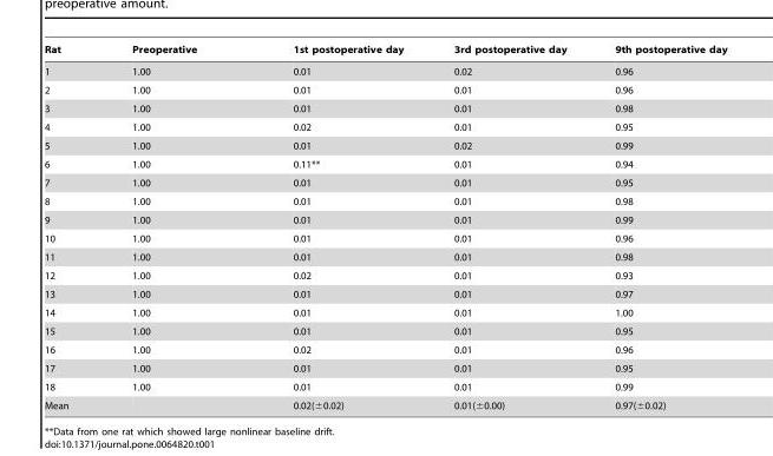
<table><thead><tr><td>Rat</td><td>Preoperative</td><td>1st postoperative day</td><td>3rd postoperative day</td><td>9th postoperative day</td></tr></thead><tbody><tr><td>1</td><td>1.00</td><td>0.01</td><td>0.02</td><td>0.96</td></tr><tr><td>2</td><td>1.00</td><td>0.01</td><td>0.01</td><td>0.96</td></tr><tr><td>3</td><td>1.00</td><td>0.01</td><td>0.01</td><td>0.98</td></tr><tr><td>4</td><td>1.00</td><td>0.02</td><td>0.01</td><td>0.95</td></tr><tr><td>5</td><td>1.00</td><td>0.01</td><td>0.02</td><td>0.99</td></tr><tr><td>6</td><td>1.00</td><td>0.11**</td><td>0.01</td><td>0.94</td></tr><tr><td>7</td><td>1.00</td><td>0.01</td><td>0.01</td><td>0.95</td></tr><tr><td>8</td><td>1.00</td><td>0.01</td><td>0.01</td><td>0.98</td></tr><tr><td>9</td><td>1.00</td><td>0.01</td><td>0.01</td><td>0.99</td></tr><tr><td>10</td><td>1.00</td><td>0.01</td><td>0.01</td><td>0.96</td></tr><tr><td>11</td><td>1.00</td><td>0.01</td><td>0.01</td><td>0.98</td></tr><tr><td>12</td><td>1.00</td><td>0.02</td><td>0.01</td><td>0.93</td></tr><tr><td>13</td><td>1.00</td><td>0.01</td><td>0.01</td><td>0.97</td></tr><tr><td>14</td><td>1.00</td><td>0.01</td><td>0.01</td><td>1.00</td></tr><tr><td>15</td><td>1.00</td><td>0.01</td><td>0.01</td><td>0.95</td></tr><tr><td>16</td><td>1.00</td><td>0.02</td><td>0.01</td><td>0.96</td></tr><tr><td>17</td><td>1.00</td><td>0.01</td><td>0.01</td><td>0.95</td></tr><tr><td>18</td><td>1.00</td><td>0.01</td><td>0.01</td><td>0.99</td></tr><tr><td>Mean</td><td></td><td>0.02(±0.02)</td><td>0.01(±0.00)</td><td>0.97(±0.02)</td></tr></tbody></table>